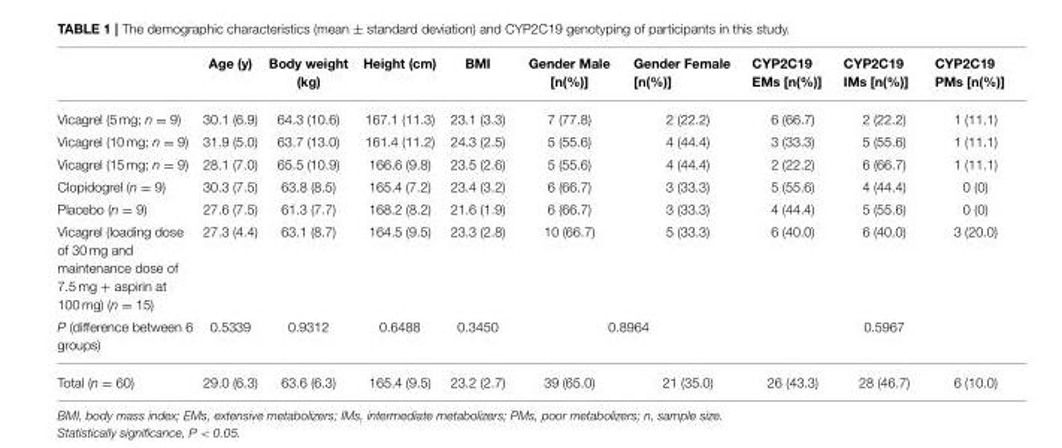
<table><thead><tr><td></td><td>Age (y)</td><td>Body weight (kg)</td><td>Height (cm)</td><td>BMI</td><td>Gender Male [n(%)]</td><td>Gender Female [n(%)]</td><td>CYP2C19 EMs [n(%)]</td><td>CYP2C19 IMs [n(%)]</td><td>CYP2C19 PMs [n(%)]</td></tr></thead><tbody><tr><td>Vicagrel (5 mg; n = 9)</td><td>30.1 (6.9)</td><td>64.3 (10.6)</td><td>167.1 (11.3)</td><td>23.1 (3.3)</td><td>7 (77.8)</td><td>2 (22.2)</td><td>6 (66.7)</td><td>2 (22.2)</td><td>1 (11.1)</td></tr><tr><td>Vicagrel (10 mg; n = 9)</td><td>31.9 (5.0)</td><td>63.7 (13.0)</td><td>161.4 (11.2)</td><td>24.3 (2.5)</td><td>5 (55.6)</td><td>4 (44.4)</td><td>3 (33.3)</td><td>5 (55.6)</td><td>1 (11.1)</td></tr><tr><td>Vicagrel (15 mg; n = 9)</td><td>28.1 (7.0)</td><td>65.5 (10.9)</td><td>166.6 (9.8)</td><td>23.5 (2.6)</td><td>5 (55.6)</td><td>4 (44.4)</td><td>2 (22.2)</td><td>6 (66.7)</td><td>1 (11.1)</td></tr><tr><td>Clopidogrel (n = 9)</td><td>30.3 (7.5)</td><td>63.8 (8.5)</td><td>165.4 (7.2)</td><td>23.4 (3.2)</td><td>6 (66.7)</td><td>3 (33.3)</td><td>5 (55.6)</td><td>4 (44.4)</td><td>0 (0)</td></tr><tr><td>Placebo (n = 9)</td><td>27.6 (7.5)</td><td>61.3 (7.7)</td><td>168.2 (8.2)</td><td>21.6 (1.9)</td><td>6 (66.7)</td><td>3 (33.3)</td><td>4 (44.4)</td><td>5 (55.6)</td><td>0 (0)</td></tr><tr><td>Vicagrel (loading dose of 30 mg and maintenance dose of 7.5 mg + aspirin at 100 mg) (n = 15)</td><td>27.3 (4.4)</td><td>63.1 (8.7)</td><td>164.5 (9.5)</td><td>23.3 (2.8)</td><td>10 (66.7)</td><td>5 (33.3)</td><td>6 (40.0)</td><td>6 (40.0)</td><td>3 (20.0)</td></tr><tr><td>P (difference between 6 groups)</td><td>0.5339</td><td>0.9312</td><td>0.6488</td><td>0.3450</td><td colspan="2">0.8964</td><td colspan="3">0.5967</td></tr><tr><td>Total (n = 60)</td><td>29.0 (6.3)</td><td>63.6 (6.3)</td><td>165.4 (9.5)</td><td>23.2 (2.7)</td><td>39 (65.0)</td><td>21 (35.0)</td><td>26 (43.3)</td><td>28 (46.7)</td><td>6 (10.0)</td></tr></tbody></table>